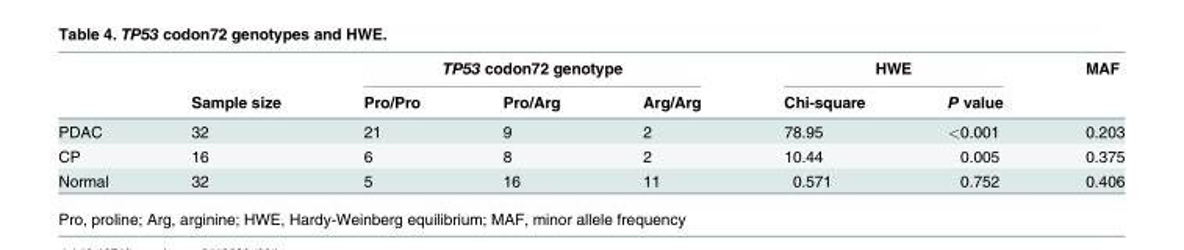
<table><thead><tr><td rowspan="2"></td><td rowspan="2">Sample size</td><td colspan="3">TP53 codon72 genotype</td><td colspan="2">HWE</td><td rowspan="2">MAF</td></tr><tr><td>Pro/Pro</td><td>Pro/Arg</td><td>Arg/Arg</td><td>Chi-square</td><td>P value</td></tr></thead><tbody><tr><td>PDAC</td><td>32</td><td>21</td><td>9</td><td>2</td><td>78.95</td><td>&lt;0.001</td><td>0.203</td></tr><tr><td>CP</td><td>16</td><td>6</td><td>8</td><td>2</td><td>10.44</td><td>0.005</td><td>0.375</td></tr><tr><td>Normal</td><td>32</td><td>5</td><td>16</td><td>11</td><td>0.571</td><td>0.752</td><td>0.406</td></tr></tbody></table>